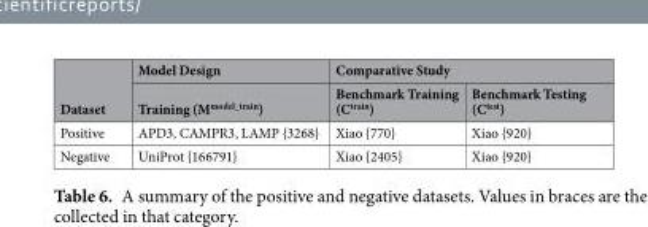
<table><thead><tr><td rowspan="2">Dataset</td><td rowspan="2">Model Design Training (M<sup>model_train</sup>)</td><td colspan="2">Comparative Study</td></tr><tr><td>Benchmark Training (C<sup>train</sup>)</td><td>Benchmark Testing (C<sup>test</sup>)</td></tr></thead><tbody><tr><td>Positive</td><td>APD3, CAMPR3, LAMP {3268}</td><td>Xiao {770}</td><td>Xiao {920}</td></tr><tr><td>Negative</td><td>UniProt {166791}</td><td>Xiao {2405}</td><td>Xiao {920}</td></tr></tbody></table>